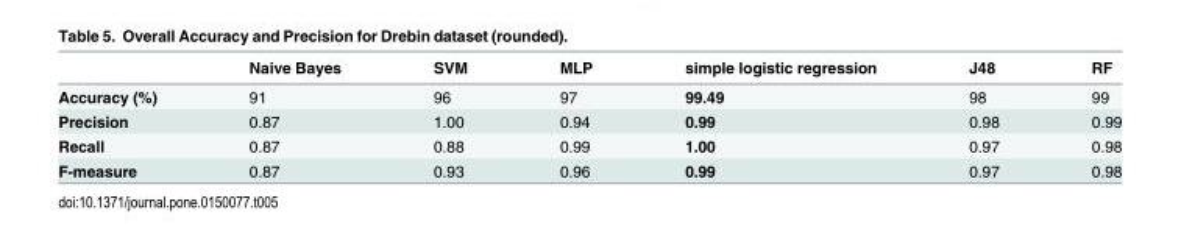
<table><thead><tr><td></td><td>Naive Bayes</td><td>SVM</td><td>MLP</td><td>simple logistic regression</td><td>J48</td><td>RF</td></tr></thead><tbody><tr><td>Accuracy (%)</td><td>91</td><td>96</td><td>97</td><td>99.49</td><td>98</td><td>99</td></tr><tr><td>Precision</td><td>0.87</td><td>1.00</td><td>0.94</td><td>0.99</td><td>0.98</td><td>0.99</td></tr><tr><td>Recall</td><td>0.87</td><td>0.88</td><td>0.99</td><td>1.00</td><td>0.97</td><td>0.98</td></tr><tr><td>F-measure</td><td>0.87</td><td>0.93</td><td>0.96</td><td>0.99</td><td>0.97</td><td>0.98</td></tr></tbody></table>